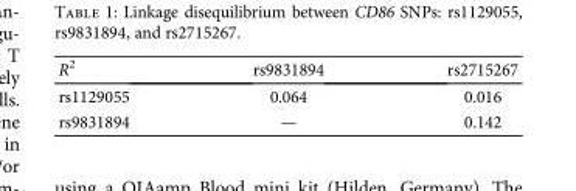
<table><thead><tr><td>R<sup>2</sup></td><td>rs9831894</td><td>rs2715267</td></tr></thead><tbody><tr><td>rs1129055</td><td>0.064</td><td>0.016</td></tr><tr><td>rs9831894</td><td>—</td><td>0.142</td></tr></tbody></table>